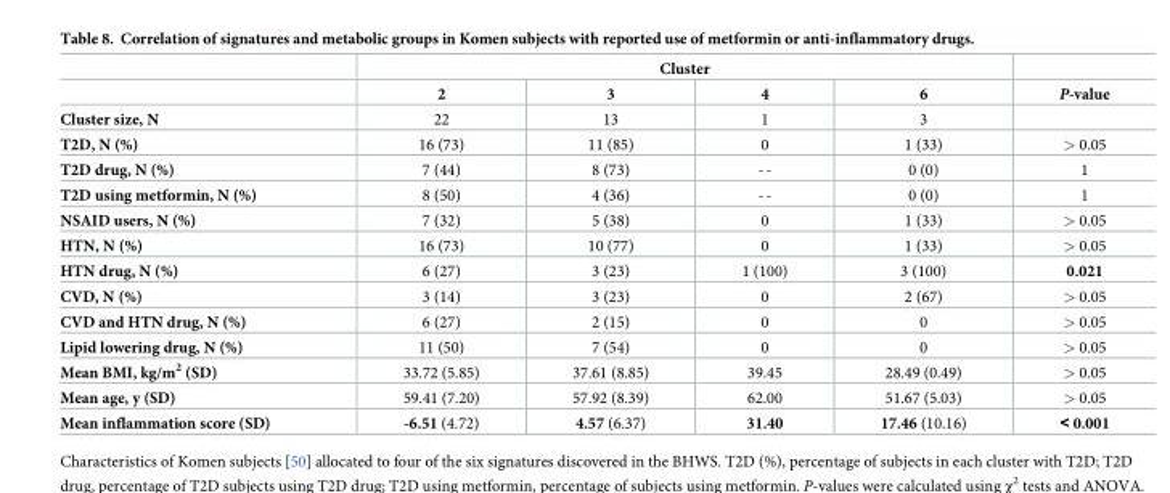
<table><thead><tr><td rowspan="2"></td><td colspan="4">Cluster</td><td rowspan="2">P-value</td></tr><tr><td>2</td><td>3</td><td>4</td><td>6</td></tr></thead><tbody><tr><td>Cluster size, N</td><td>22</td><td>13</td><td>1</td><td>3</td><td></td></tr><tr><td>T2D, N (%)</td><td>16 (73)</td><td>11 (85)</td><td>0</td><td>1 (33)</td><td>&gt; 0.05</td></tr><tr><td>T2D drug, N (%)</td><td>7 (44)</td><td>8 (73)</td><td>--</td><td>0 (0)</td><td>1</td></tr><tr><td>T2D using metformin, N (%)</td><td>8 (50)</td><td>4 (36)</td><td>--</td><td>0 (0)</td><td>1</td></tr><tr><td>NSAID users, N (%)</td><td>7 (32)</td><td>5 (38)</td><td>0</td><td>1 (33)</td><td>&gt; 0.05</td></tr><tr><td>HTN, N (%)</td><td>16 (73)</td><td>10 (77)</td><td>0</td><td>1 (33)</td><td>&gt; 0.05</td></tr><tr><td>HTN drug, N (%)</td><td>6 (27)</td><td>3 (23)</td><td>1 (100)</td><td>3 (100)</td><td>0.021</td></tr><tr><td>CVD, N (%)</td><td>3 (14)</td><td>3 (23)</td><td>0</td><td>2 (67)</td><td>&gt; 0.05</td></tr><tr><td>CVD and HTN drug, N (%)</td><td>6 (27)</td><td>2 (15)</td><td>0</td><td>0</td><td>&gt; 0.05</td></tr><tr><td>Lipid lowering drug, N (%)</td><td>11 (50)</td><td>7 (54)</td><td>0</td><td>0</td><td>&gt; 0.05</td></tr><tr><td>Mean BMI, kg/m<sup>2</sup> (SD)</td><td>33.72 (5.85)</td><td>37.61 (8.85)</td><td>39.45</td><td>28.49 (0.49)</td><td>&gt; 0.05</td></tr><tr><td>Mean age, y (SD)</td><td>59.41 (7.20)</td><td>57.92 (8.39)</td><td>62.00</td><td>51.67 (5.03)</td><td>&gt; 0.05</td></tr><tr><td>Mean inflammation score (SD)</td><td>-6.51 (4.72)</td><td>4.57 (6.37)</td><td>31.40</td><td>17.46 (10.16)</td><td>&lt; 0.001</td></tr></tbody></table>